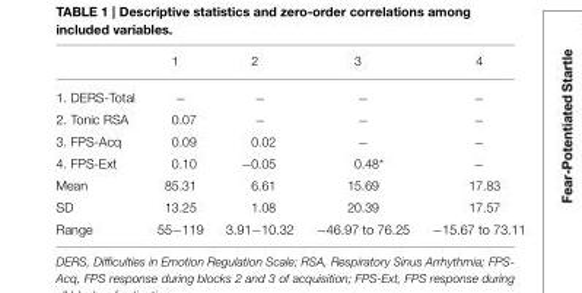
<table><thead><tr><td></td><td>1</td><td>2</td><td>3</td><td>4</td></tr></thead><tbody><tr><td>1. DERS-Total</td><td>−</td><td>−</td><td>−</td><td>−</td></tr><tr><td>2. Tonic RSA</td><td>0.07</td><td>−</td><td>−</td><td>−</td></tr><tr><td>3. FPS-Acq</td><td>0.09</td><td>0.02</td><td>−</td><td>−</td></tr><tr><td>4. FPS-Ext</td><td>0.10</td><td>−0.05</td><td>0.48*</td><td>−</td></tr><tr><td>Mean</td><td>85.31</td><td>6.61</td><td>15.69</td><td>17.83</td></tr><tr><td>SD</td><td>13.25</td><td>1.08</td><td>20.39</td><td>17.57</td></tr><tr><td>Range</td><td>55−119</td><td>3.91−10.32</td><td>−46.97 to 76.25</td><td>−15.67 to 73.11</td></tr></tbody></table>